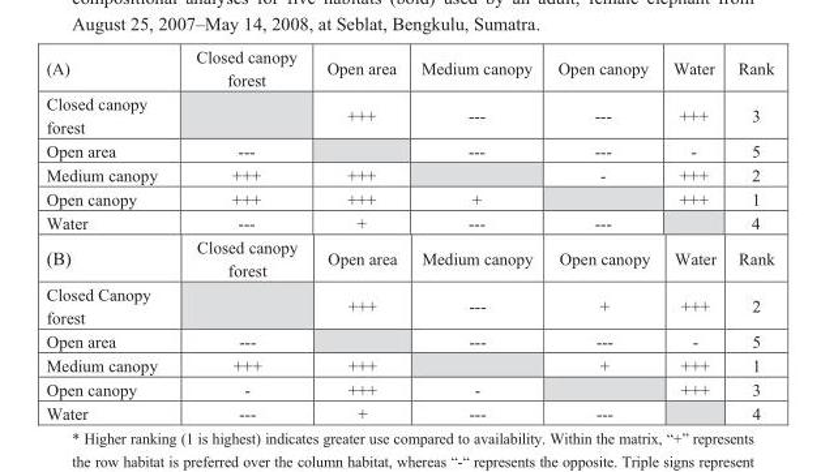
<table><tbody><tr><td>(A)</td><td>Closed canopy forest</td><td>Open area</td><td>Medium canopy</td><td>Open canopy</td><td>Water</td><td>Rank</td></tr><tr><td>Closed canopy forest</td><td></td><td>+++</td><td>---</td><td>---</td><td>+++</td><td>3</td></tr><tr><td>Open area</td><td>---</td><td></td><td>---</td><td>---</td><td>-</td><td>5</td></tr><tr><td>Medium canopy</td><td>+++</td><td>+++</td><td></td><td>-</td><td>+++</td><td>2</td></tr><tr><td>Open canopy</td><td>+++</td><td>+++</td><td>+</td><td></td><td>+++</td><td>1</td></tr><tr><td>Water</td><td>---</td><td>+</td><td>---</td><td>---</td><td></td><td>4</td></tr><tr><td>(B)�</td><td>Closed canopy forest</td><td>Open area</td><td>Medium canopy</td><td>Open canopy</td><td>Water</td><td>Rank</td></tr><tr><td>Closed Canopy forest</td><td></td><td>+++</td><td>---</td><td>+</td><td>+++</td><td>2</td></tr><tr><td>Open area</td><td>---</td><td></td><td>---</td><td>---</td><td>-</td><td>5</td></tr><tr><td>Medium canopy</td><td>+++</td><td>+++</td><td></td><td>+</td><td>+++</td><td>1</td></tr><tr><td>Open canopy</td><td>-</td><td>+++</td><td>-</td><td></td><td>+++</td><td>3</td></tr><tr><td>Water</td><td>---</td><td>+</td><td>---</td><td>---</td><td></td><td>4</td></tr></tbody></table>